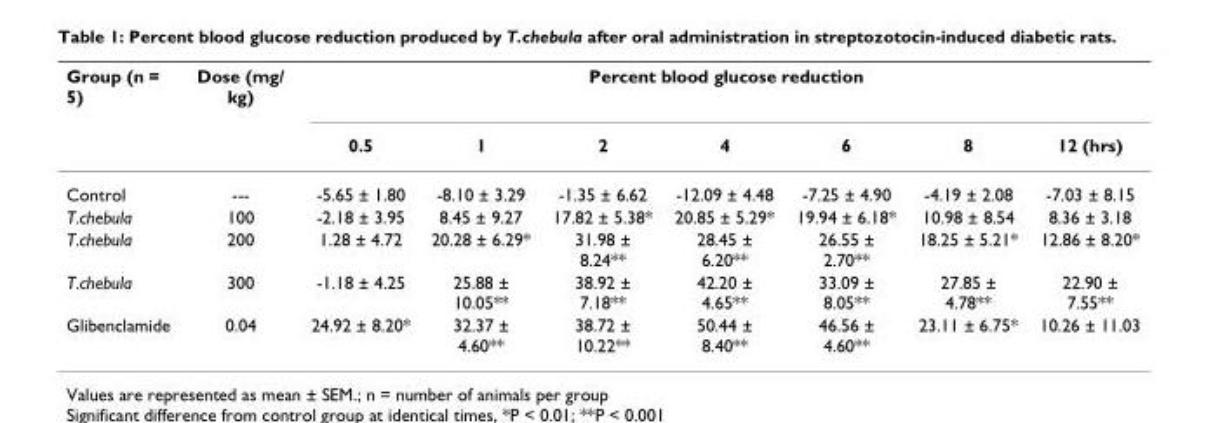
<table><thead><tr><td rowspan="2">Group (n = 5)</td><td rowspan="2">Dose (mg/ kg)</td><td colspan="7">Percent blood glucose reduction</td></tr><tr><td>0.5</td><td>1</td><td>2</td><td>4</td><td>6</td><td>8</td><td>12 (hrs)</td></tr></thead><tbody><tr><td>Control</td><td>---</td><td>-5.65 ± 1.80</td><td>-8.10 ± 3.29</td><td>-1.35 ± 6.62</td><td>-12.09 ± 4.48</td><td>-7.25 ± 4.90</td><td>-4.19 ± 2.08</td><td>-7.03 ± 8.15</td></tr><tr><td>T.chebula</td><td>100</td><td>-2.18 ± 3.95</td><td>8.45 ± 9.27</td><td>17.82 ± 5.38*</td><td>20.85 ± 5.29*</td><td>19.94 ± 6.18*</td><td>10.98 ± 8.54</td><td>8.36 ± 3.18</td></tr><tr><td>T.chebula</td><td>200</td><td>1.28 ± 4.72</td><td>20.28 ± 6.29*</td><td>31.98 ± 8.24**</td><td>28.45 ± 6.20**</td><td>26.55 ± 2.70**</td><td>18.25 ± 5.21*</td><td>12.86 ± 8.20*</td></tr><tr><td>T.chebula</td><td>300</td><td>-1.18 ± 4.25</td><td>25.88 ± 10.05**</td><td>38.92 ± 7.18**</td><td>42.20 ± 4.65**</td><td>33.09 ± 8.05**</td><td>27.85 ± 4.78**</td><td>22.90 ± 7.55**</td></tr><tr><td>Glibenclamide</td><td>0.04</td><td>24.92 ± 8.20*</td><td>32.37 ± 4.60**</td><td>38.72 ± 10.22**</td><td>50.44 ± 8.40**</td><td>46.56 ± 4.60**</td><td>23.11 ± 6.75*</td><td>10.26 ± 11.03</td></tr></tbody></table>